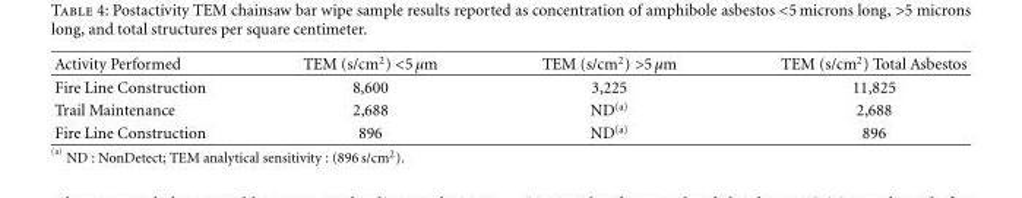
<table><thead><tr><td>Activity Performed</td><td>TEM (s/cm<sup>2</sup>) &lt;5 µm</td><td>TEM (s/cm<sup>2</sup>) &gt;5 µm</td><td>TEM (s/cm<sup>2</sup>) Total Asbestos</td></tr></thead><tbody><tr><td>Fire Line Construction</td><td>8,600</td><td>3,225</td><td>11,825</td></tr><tr><td>Trail Maintenance</td><td>2,688</td><td>ND<sup>(a)</sup></td><td>2,688</td></tr><tr><td>Fire Line Construction</td><td>896</td><td>ND<sup>(a)</sup></td><td>896</td></tr></tbody></table>